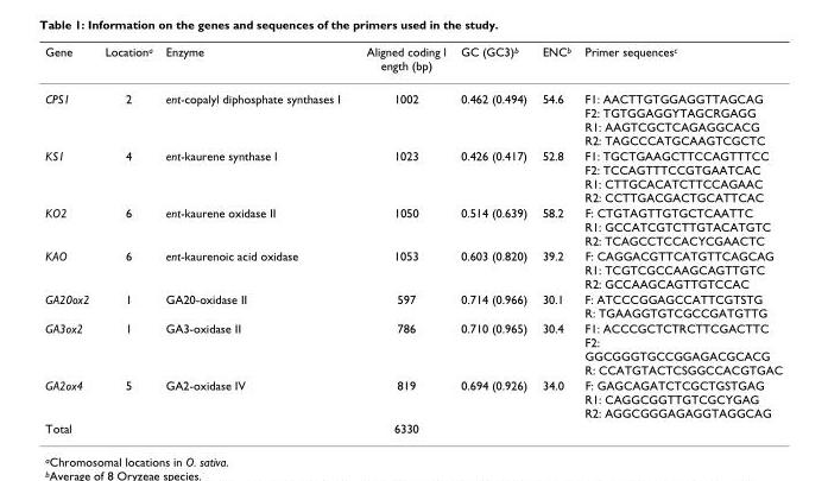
<table><thead><tr><td>Gene</td><td>Location<sup>a</sup></td><td>Enzyme</td><td>Aligned coding l ength (bp)</td><td>GC (GC3)<sup>b</sup></td><td>ENC<sup>b</sup></td><td>Primer sequences<sup>c</sup></td></tr></thead><tbody><tr><td>CPS1</td><td>2</td><td>ent-copalyl diphosphate synthases I</td><td>1002</td><td>0.462 (0.494)</td><td>54.6</td><td>F1: AACTTGTGGAGGTTAGCAG F2: TGTGGAGGYTAGCRGAGG R1: AAGTCGCTCAGAGGCACG R2: TAGCCCATGCAAGTCGCTC</td></tr><tr><td>KS1</td><td>4</td><td>ent-kaurene synthase I</td><td>1023</td><td>0.426 (0.417)</td><td>52.8</td><td>F1: TGCTGAAGCTTCCAGTTTCC F2: TCCAGTTTCCGTGAATCAC R1: CTTGCACATCTTCCAGAAC R2: CCTTGACGACTGCATTCAC</td></tr><tr><td>KO2</td><td>6</td><td>ent-kaurene oxidase II</td><td>1050</td><td>0.514 (0.639)</td><td>58.2</td><td>F: CTGTAGTTGTGCTCAATTC R1: GCCATCGTCTTGTACATGTC R2: TCAGCCTCCACYCGAACTC</td></tr><tr><td>KAO</td><td>6</td><td>ent-kaurenoic acid oxidase</td><td>1053</td><td>0.603 (0.820)</td><td>39.2</td><td>F: CAGGACGTTCATGTTCAGCAG R1: TCGTCGCCAAGCAGTTGTC R2: GCCAAGCAGTTGTCCAC</td></tr><tr><td>GA20ox2</td><td>1</td><td>GA20-oxidase II</td><td>597</td><td>0.714 (0.966)</td><td>30.1</td><td>F: ATCCCGGAGCCATTCGTSTG R: TGAAGGTGTCGCCGATGTTG</td></tr><tr><td>GA3ox2</td><td>1</td><td>GA3-oxidase II</td><td>786</td><td>0.710 (0.965)</td><td>30.4</td><td>F1: ACCCGCTCTRCTTCGACTTC F2: GGCGGGTGCCGGAGACGCACG R: CCATGTACTCSGGCCACGTGAC</td></tr><tr><td>GA2ox4</td><td>5</td><td>GA2-oxidase IV</td><td>819</td><td>0.694 (0.926)</td><td>34.0</td><td>F: GAGCAGATCTCGCTGSTGAG R1: CAGGCGGTTGTCGCYGAG R2: AGGCGGGAGAGGTAGGCAG</td></tr><tr><td>Total</td><td></td><td></td><td>6330</td><td></td><td></td><td></td></tr></tbody></table>